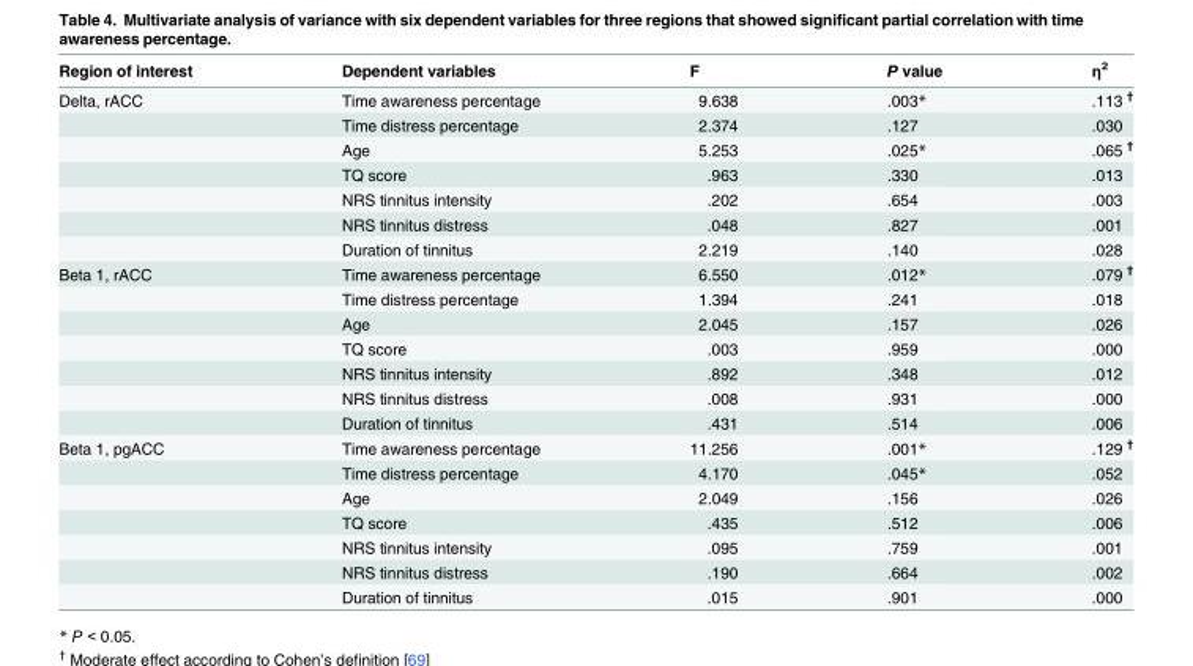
<table><thead><tr><td>Region of interest</td><td>Dependent variables</td><td>F</td><td>P value</td><td>η<sup>2</sup></td></tr></thead><tbody><tr><td rowspan="7">Delta, rACC</td><td>Time awareness percentage</td><td>9.638</td><td>.003*</td><td>.113 <sup>†</sup></td></tr><tr><td>Time distress percentage</td><td>2.374</td><td>.127</td><td>.030</td></tr><tr><td>Age</td><td>5.253</td><td>.025*</td><td>.065 <sup>†</sup></td></tr><tr><td>TQ score</td><td>.963</td><td>.330</td><td>.013</td></tr><tr><td>NRS tinnitus intensity</td><td>.202</td><td>.654</td><td>.003</td></tr><tr><td>NRS tinnitus distress</td><td>.048</td><td>.827</td><td>.001</td></tr><tr><td>Duration of tinnitus</td><td>2.219</td><td>.140</td><td>.028</td></tr><tr><td rowspan="7">Beta 1, rACC</td><td>Time awareness percentage</td><td>6.550</td><td>.012*</td><td>.079 <sup>†</sup></td></tr><tr><td>Time distress percentage</td><td>1.394</td><td>.241</td><td>.018</td></tr><tr><td>Age</td><td>2.045</td><td>.157</td><td>.026</td></tr><tr><td>TQ score</td><td>.003</td><td>.959</td><td>.000</td></tr><tr><td>NRS tinnitus intensity</td><td>.892</td><td>.348</td><td>.012</td></tr><tr><td>NRS tinnitus distress</td><td>.008</td><td>.931</td><td>.000</td></tr><tr><td>Duration of tinnitus</td><td>.431</td><td>.514</td><td>.006</td></tr><tr><td rowspan="7">Beta 1, pgACC</td><td>Time awareness percentage</td><td>11.256</td><td>.001*</td><td>.129 <sup>†</sup></td></tr><tr><td>Time distress percentage</td><td>4.170</td><td>.045*</td><td>.052</td></tr><tr><td>Age</td><td>2.049</td><td>.156</td><td>.026</td></tr><tr><td>TQ score</td><td>.435</td><td>.512</td><td>.006</td></tr><tr><td>NRS tinnitus intensity</td><td>.095</td><td>.759</td><td>.001</td></tr><tr><td>NRS tinnitus distress</td><td>.190</td><td>.664</td><td>.002</td></tr><tr><td>Duration of tinnitus</td><td>.015</td><td>.901</td><td>.000</td></tr></tbody></table>